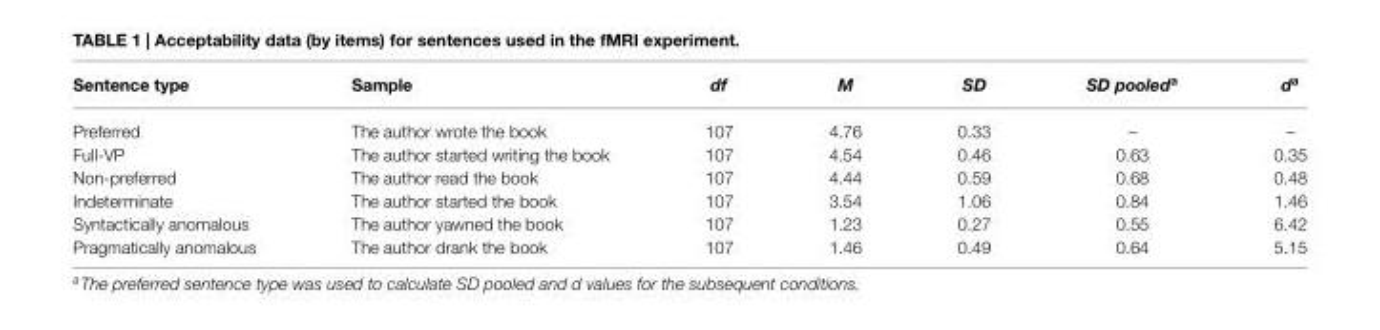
<table><thead><tr><td>Sentence type</td><td>Sample</td><td>df</td><td>M</td><td>SD</td><td>SD pooled<sup>a</sup></td><td>d<sup>a</sup></td></tr></thead><tbody><tr><td>Preferred</td><td>The author wrote the book</td><td>107</td><td>4.76</td><td>0.33</td><td>–</td><td>–</td></tr><tr><td>Full-VP</td><td>The author started writing the book</td><td>107</td><td>4.54</td><td>0.46</td><td>0.63</td><td>0.35</td></tr><tr><td>Non-preferred</td><td>The author read the book</td><td>107</td><td>4.44</td><td>0.59</td><td>0.68</td><td>0.48</td></tr><tr><td>Indeterminate</td><td>The author started the book</td><td>107</td><td>3.54</td><td>1.06</td><td>0.84</td><td>1.46</td></tr><tr><td>Syntactically anomalous</td><td>The author yawned the book</td><td>107</td><td>1.23</td><td>0.27</td><td>0.55</td><td>6.42</td></tr><tr><td>Pragmatically anomalous</td><td>The author drank the book</td><td>107</td><td>1.46</td><td>0.49</td><td>0.64</td><td>5.15</td></tr></tbody></table>